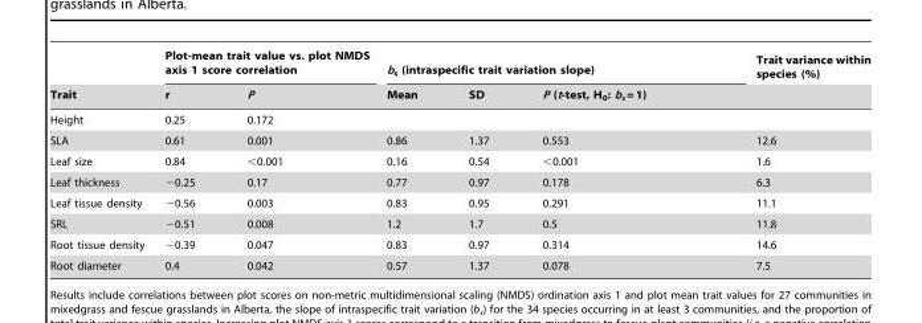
<table><thead><tr><td rowspan="2">Trait</td><td colspan="2">Plot-mean trait value vs. plot NMDS axis 1 score correlation</td><td colspan="3">b<sub>s</sub> (intraspecific trait variation slope)</td><td rowspan="2">Trait variance within species (%)</td></tr><tr><td>r</td><td>P</td><td>Mean</td><td>SD</td><td>P (t-test, H<sub>0</sub>: b<sub>s</sub> = 1)</td></tr></thead><tbody><tr><td>Height</td><td>0.25</td><td>0.172</td><td></td><td></td><td></td><td></td></tr><tr><td>SLA</td><td>0.61</td><td>0.001</td><td>0.86</td><td>1.37</td><td>0.553</td><td>12.6</td></tr><tr><td>Leaf size</td><td>0.84</td><td>&lt;0.001</td><td>0.16</td><td>0.54</td><td>&lt;0.001</td><td>1.6</td></tr><tr><td>Leaf thickness</td><td>−0.25</td><td>0.17</td><td>0.77</td><td>0.97</td><td>0.178</td><td>6.3</td></tr><tr><td>Leaf tissue density</td><td>−0.56</td><td>0.003</td><td>0.83</td><td>0.95</td><td>0.291</td><td>11.1</td></tr><tr><td>SRL</td><td>−0.51</td><td>0.008</td><td>1.2</td><td>1.7</td><td>0.5</td><td>11.8</td></tr><tr><td>Root tissue density</td><td>−0.39</td><td>0.047</td><td>0.83</td><td>0.97</td><td>0.314</td><td>14.6</td></tr><tr><td>Root diameter</td><td>0.4</td><td>0.042</td><td>0.57</td><td>1.37</td><td>0.078</td><td>7.5</td></tr></tbody></table>